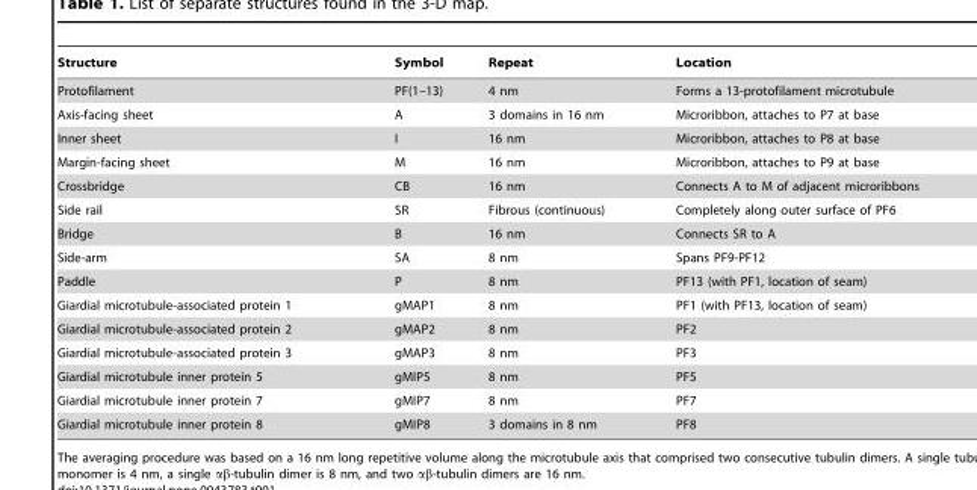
<table><thead><tr><td>Structure</td><td>Symbol</td><td>Repeat</td><td>Location</td></tr></thead><tbody><tr><td>Protofilament</td><td>PF(1–13)</td><td>4 nm</td><td>Forms a 13-protofilament microtubule</td></tr><tr><td>Axis-facing sheet</td><td>A</td><td>3 domains in 16 nm</td><td>Microribbon, attaches to P7 at base</td></tr><tr><td>Inner sheet</td><td>I</td><td>16 nm</td><td>Microribbon, attaches to P8 at base</td></tr><tr><td>Margin-facing sheet</td><td>M</td><td>16 nm</td><td>Microribbon, attaches to P9 at base</td></tr><tr><td>Crossbridge</td><td>CB</td><td>16 nm</td><td>Connects A to M of adjacent microribbons</td></tr><tr><td>Side rail</td><td>SR</td><td>Fibrous (continuous)</td><td>Completely along outer surface of PF6</td></tr><tr><td>Bridge</td><td>B</td><td>16 nm</td><td>Connects SR to A</td></tr><tr><td>Side-arm</td><td>SA</td><td>8 nm</td><td>Spans PF9-PF12</td></tr><tr><td>Paddle</td><td>P</td><td>8 nm</td><td>PF13 (with PF1, location of seam)</td></tr><tr><td>Giardial microtubule-associated protein 1</td><td>gMAP1</td><td>8 nm</td><td>PF1 (with PF13, location of seam)</td></tr><tr><td>Giardial microtubule-associated protein 2</td><td>gMAP2</td><td>8 nm</td><td>PF2</td></tr><tr><td>Giardial microtubule-associated protein 3</td><td>gMAP3</td><td>8 nm</td><td>PF3</td></tr><tr><td>Giardial microtubule inner protein 5</td><td>gMIP5</td><td>8 nm</td><td>PF5</td></tr><tr><td>Giardial microtubule inner protein 7</td><td>gMIP7</td><td>8 nm</td><td>PF7</td></tr><tr><td>Giardial microtubule inner protein 8</td><td>gMIP8</td><td>3 domains in 8 nm</td><td>PF8</td></tr></tbody></table>